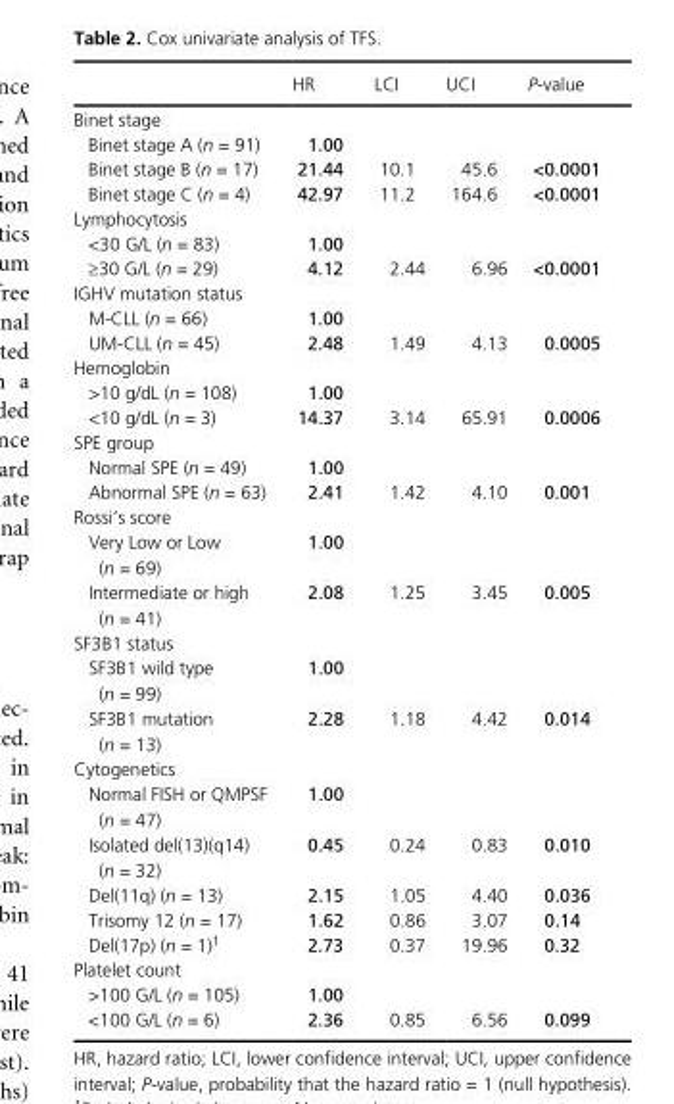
<table><thead><tr><td></td><td>HR</td><td>LCI</td><td>UCI</td><td>P- value</td></tr></thead><tbody><tr><td colspan="5">Binet stage</td></tr><tr><td>Binet stage A (n = 91)</td><td>1.00</td><td></td><td></td><td></td></tr><tr><td>Binet stage B (n = 17)</td><td>21.44</td><td>10.1</td><td>45.6</td><td>&lt;0.0001</td></tr><tr><td>Binet stage C (n = 4)</td><td>42.97</td><td>11.2</td><td>164.6</td><td>&lt;0.0001</td></tr><tr><td colspan="5">Lymphocytosis</td></tr><tr><td>&lt;30 G/L (n = 83)</td><td>1.00</td><td></td><td></td><td></td></tr><tr><td>≥30 G/L (n = 29)</td><td>4.12</td><td>2.44</td><td>6.96</td><td>&lt;0.0001</td></tr><tr><td colspan="5">IGHV mutation status</td></tr><tr><td>M- CLL (n = 66)</td><td>1.00</td><td></td><td></td><td></td></tr><tr><td>UM- CLL (n = 45)</td><td>2.48</td><td>1.49</td><td>4.13</td><td>0.0005</td></tr><tr><td colspan="5">Hemoglobin</td></tr><tr><td>&gt;10 g/dL (n = 108)</td><td>1.00</td><td></td><td></td><td></td></tr><tr><td>&lt;10 g/dL (n = 3)</td><td>14.37</td><td>3.14</td><td>65.91</td><td>0.0006</td></tr><tr><td colspan="5">SPE group</td></tr><tr><td>Normal SPE (n = 49)</td><td>1.00</td><td></td><td></td><td></td></tr><tr><td>Abnormal SPE (n = 63)</td><td>2.41</td><td>1.42</td><td>4.10</td><td>0.001</td></tr><tr><td colspan="5">Rossi’s score</td></tr><tr><td>Very Low or Low (n = 69)</td><td>1.00</td><td></td><td></td><td></td></tr><tr><td>Intermediate or high (n = 41)</td><td>2.08</td><td>1.25</td><td>3.45</td><td>0.005</td></tr><tr><td colspan="5">SF3B1 status</td></tr><tr><td>SF3B1 wild type (n = 99)</td><td>1.00</td><td></td><td></td><td></td></tr><tr><td>SF3B1 mutation (n = 13)</td><td>2.28</td><td>1.18</td><td>4.42</td><td>0.014</td></tr><tr><td colspan="5">Cytogenetics</td></tr><tr><td>Normal FISH or QMPSF (n = 47)</td><td>1.00</td><td></td><td></td><td></td></tr><tr><td>Isolated del(13)(q14) (n = 32)</td><td>0.45</td><td>0.24</td><td>0.83</td><td>0.010</td></tr><tr><td>Del(11q) (n = 13)</td><td>2.15</td><td>1.05</td><td>4.40</td><td>0.036</td></tr><tr><td>Trisomy 12 (n = 17)</td><td>1.62</td><td>0.86</td><td>3.07</td><td>0.14</td></tr><tr><td>Del(17p) (n = 1)1</td><td>2.73</td><td>0.37</td><td>19.96</td><td>0.32</td></tr><tr><td colspan="5">Platelet count</td></tr><tr><td>&gt;100 G/L (n = 105)</td><td>1.00</td><td></td><td></td><td></td></tr><tr><td>&lt;100 G/L (n = 6)</td><td>2.36</td><td>0.85</td><td>6.56</td><td>0.099</td></tr></tbody></table>